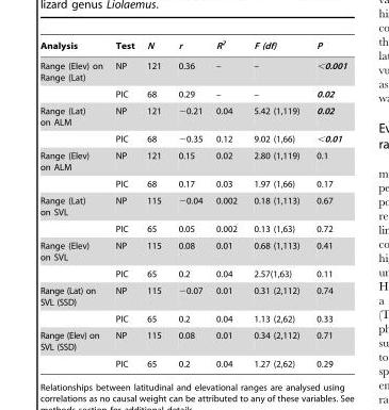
<table><thead><tr><td>Analysis</td><td>Test</td><td>N</td><td>r</td><td>R<sup>2</sup></td><td>F (df)</td><td>P</td></tr></thead><tbody><tr><td rowspan="2">Range (Elev) on Range (Lat)</td><td>NP</td><td>121</td><td>0.36</td><td>–</td><td>–</td><td>&lt;0.001</td></tr><tr><td>PIC</td><td>68</td><td>0.29</td><td>–</td><td>–</td><td>0.02</td></tr><tr><td rowspan="2">Range (Lat) on ALM</td><td>NP</td><td>121</td><td>−0.21</td><td>0.04</td><td>5.42 (1,119)</td><td>0.02</td></tr><tr><td>PIC</td><td>68</td><td>−0.35</td><td>0.12</td><td>9.02 (1,66)</td><td>&lt;0.01</td></tr><tr><td rowspan="2">Range (Elev) on ALM</td><td>NP</td><td>121</td><td>0.15</td><td>0.02</td><td>2.80 (1,119)</td><td>0.1</td></tr><tr><td>PIC</td><td>68</td><td>0.17</td><td>0.03</td><td>1.97 (1,66)</td><td>0.17</td></tr><tr><td rowspan="2">Range (Lat) on SVL</td><td>NP</td><td>115</td><td>−0.04</td><td>0.002</td><td>0.18 (1,113)</td><td>0.67</td></tr><tr><td>PIC</td><td>65</td><td>0.05</td><td>0.002</td><td>0.13 (1,63)</td><td>0.72</td></tr><tr><td rowspan="2">Range (Elev) on SVL</td><td>NP</td><td>115</td><td>0.08</td><td>0.01</td><td>0.68 (1,113)</td><td>0.41</td></tr><tr><td>PIC</td><td>65</td><td>0.2</td><td>0.04</td><td>2.57(1,63)</td><td>0.11</td></tr><tr><td rowspan="2">Range (Lat) on SVL (SSD)</td><td>NP</td><td>115</td><td>−0.07</td><td>0.01</td><td>0.31 (2,112)</td><td>0.74</td></tr><tr><td>PIC</td><td>65</td><td>0.2</td><td>0.04</td><td>1.13 (2,62)</td><td>0.33</td></tr><tr><td rowspan="2">Range (Elev) on SVL (SSD)</td><td>NP</td><td>115</td><td>0.08</td><td>0.01</td><td>0.34 (2,112)</td><td>0.71</td></tr><tr><td>PIC</td><td>65</td><td>0.2</td><td>0.04</td><td>1.27 (2,62)</td><td>0.29</td></tr></tbody></table>